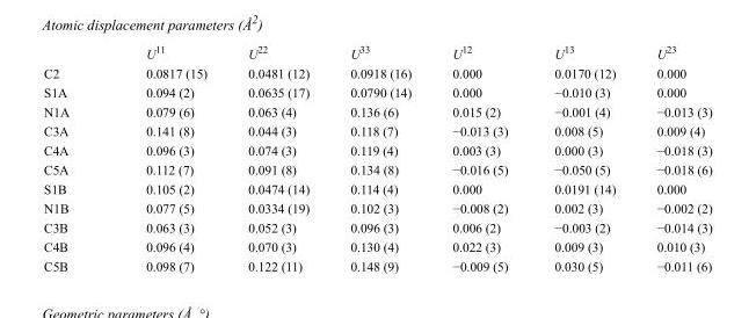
<table><thead><tr><td></td><td>U<sup>11</sup></td><td>U<sup>22</sup></td><td>U<sup>33</sup></td><td>U<sup>12</sup></td><td>U<sup>13</sup></td><td>U<sup>23</sup></td></tr></thead><tbody><tr><td>C2</td><td>0.0817 (15)</td><td>0.0481 (12)</td><td>0.0918 (16)</td><td>0.000</td><td>0.0170 (12)</td><td>0.000</td></tr><tr><td>S1A</td><td>0.094 (2)</td><td>0.0635 (17)</td><td>0.0790 (14)</td><td>0.000</td><td>−0.010 (3)</td><td>0.000</td></tr><tr><td>N1A</td><td>0.079 (6)</td><td>0.063 (4)</td><td>0.136 (6)</td><td>0.015 (2)</td><td>−0.001 (4)</td><td>−0.013 (3)</td></tr><tr><td>C3A</td><td>0.141 (8)</td><td>0.044 (3)</td><td>0.118 (7)</td><td>−0.013 (3)</td><td>0.008 (5)</td><td>0.009 (4)</td></tr><tr><td>C4A</td><td>0.096 (3)</td><td>0.074 (3)</td><td>0.119 (4)</td><td>0.003 (3)</td><td>0.000 (3)</td><td>−0.018 (3)</td></tr><tr><td>C5A</td><td>0.112 (7)</td><td>0.091 (8)</td><td>0.134 (8)</td><td>−0.016 (5)</td><td>−0.050 (5)</td><td>−0.018 (6)</td></tr><tr><td>S1B</td><td>0.105 (2)</td><td>0.0474 (14)</td><td>0.114 (4)</td><td>0.000</td><td>0.0191 (14)</td><td>0.000</td></tr><tr><td>N1B</td><td>0.077 (5)</td><td>0.0334 (19)</td><td>0.102 (3)</td><td>−0.008 (2)</td><td>0.002 (3)</td><td>−0.002 (2)</td></tr><tr><td>C3B</td><td>0.063 (3)</td><td>0.052 (3)</td><td>0.096 (3)</td><td>0.006 (2)</td><td>−0.003 (2)</td><td>−0.014 (3)</td></tr><tr><td>C4B</td><td>0.096 (4)</td><td>0.070 (3)</td><td>0.130 (4)</td><td>0.022 (3)</td><td>0.009 (3)</td><td>0.010 (3)</td></tr><tr><td>C5B</td><td>0.098 (7)</td><td>0.122 (11)</td><td>0.148 (9)</td><td>−0.009 (5)</td><td>0.030 (5)</td><td>−0.011 (6)</td></tr></tbody></table>